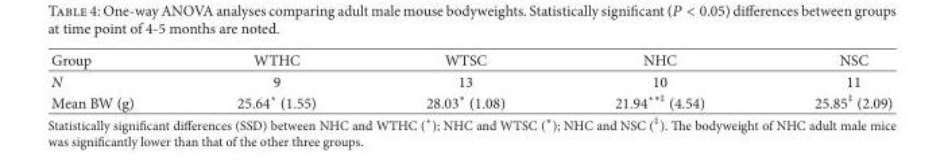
<table><thead><tr><td>Group</td><td>WTHC</td><td>WTSC</td><td>NHC</td><td>NSC</td></tr></thead><tbody><tr><td>N</td><td>9</td><td>13</td><td>10</td><td>11</td></tr><tr><td>Mean BW (g)</td><td>2𝑃𝑃64⋆ (1.55)</td><td>28.03∗ (1.08)</td><td>21𝑃94⋆∗‡ (4.54)</td><td>25.85<sup>‡</sup> (2.09)</td></tr></tbody></table>